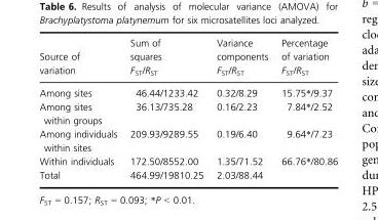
<table><thead><tr><td>Source of variation</td><td>Sum of squares F<sub>ST</sub>/R<sub>ST</sub></td><td>Variance components F<sub>ST</sub>/R<sub>ST</sub></td><td>Percentage of variation F<sub>ST</sub>/R<sub>ST</sub></td></tr></thead><tbody><tr><td>Among sites</td><td>46.44/1233.42</td><td>0.32/8.29</td><td>15.75*/9.37</td></tr><tr><td>Among sites within groups</td><td>36.13/735.28</td><td>0.16/2.23</td><td>7.84*/2.52</td></tr><tr><td>Among individuals within sites</td><td>209.93/9289.55</td><td>0.19/6.40</td><td>9.64*/7.23</td></tr><tr><td>Within individuals</td><td>172.50/8552.00</td><td>1.35/71.52</td><td>66.76*/80.86</td></tr><tr><td>Total</td><td>464.99/19810.25</td><td>2.03/88.44</td><td></td></tr></tbody></table>